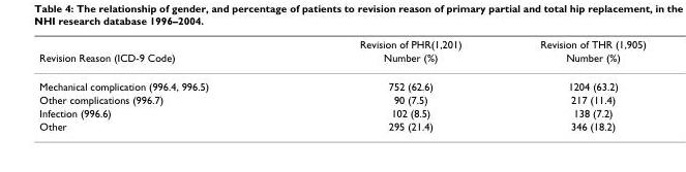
<table><thead><tr><td rowspan="2">Revision Reason (ICD-9 Code)</td><td rowspan="2">Revision of PHR(1,201) Number (%)</td><td rowspan="2">Revision of THR (1,905) Number (%)</td></tr><tr></tr></thead><tbody><tr><td>Mechanical complication (996.4, 996.5)</td><td>752 (62.6)</td><td>1204 (63.2)</td></tr><tr><td>Other complications (996.7)</td><td>90 (7.5)</td><td>217 (11.4)</td></tr><tr><td>Infection (996.6)</td><td>102 (8.5)</td><td>138 (7.2)</td></tr><tr><td>Other</td><td>295 (21.4)</td><td>346 (18.2)</td></tr></tbody></table>